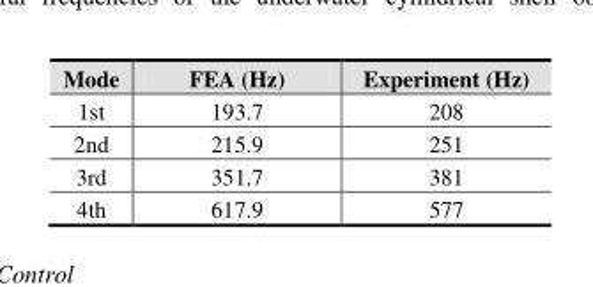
<table><thead><tr><td>Mode</td><td>FEA (Hz)</td><td>Experiment (Hz)</td></tr></thead><tbody><tr><td>1st</td><td>193.7</td><td>208</td></tr><tr><td>2nd</td><td>215.9</td><td>251</td></tr><tr><td>3rd</td><td>351.7</td><td>381</td></tr><tr><td>4th</td><td>617.9</td><td>577</td></tr></tbody></table>